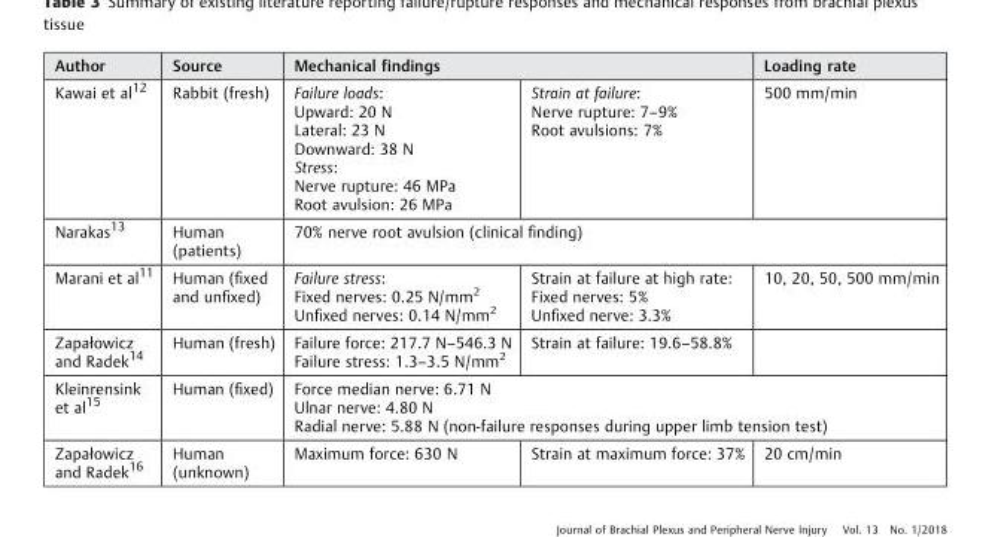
<table><thead><tr><td rowspan="2">Author Kawai et al12</td><td rowspan="2">Source Rabbit (fresh)</td><td colspan="2">Mechanical findings</td><td rowspan="2">Loading rate 500 mm/min</td></tr><tr><td>Failure loads: Upward: 20 N Lateral: 23 N Downward: 38 N Stress: Nerve rupture: 46 MPa Root avulsion: 26 MPa</td><td>Strain at failure: Nerve rupture: 7–9% Root avulsions: 7%</td></tr></thead><tbody><tr><td>Narakas13</td><td>Human (patients)</td><td colspan="3">70% nerve root avulsion (clinical finding)</td></tr><tr><td>Marani et al11</td><td>Human (fixed and unfixed)</td><td>Failure stress: Fixed nerves: 0.25 N/mm<sup>2</sup> Unfixed nerves: 0.14 N/mm<sup>2</sup></td><td>Strain at failure at high rate: Fixed nerves: 5% Unfixed nerve: 3.3%</td><td>10, 20, 50, 500 mm/min</td></tr><tr><td>Zapałowicz and Radek14</td><td>Human (fresh)</td><td>Failure force: 217.7 N–546.3 N Failure stress: 1.3–3.5 N/mm<sup>2</sup></td><td>Strain at failure: 19.6–58.8%</td><td></td></tr><tr><td>Kleinrensink et al15</td><td>Human (fixed)</td><td colspan="3">Force median nerve: 6.71 N Ulnar nerve: 4.80 N Radial nerve: 5.88 N (non-failure responses during upper limb tension test)</td></tr><tr><td>Zapałowicz and Radek16</td><td>Human (unknown)</td><td>Maximum force: 630 N</td><td>Strain at maximum force: 37%</td><td>20 cm/min</td></tr></tbody></table>